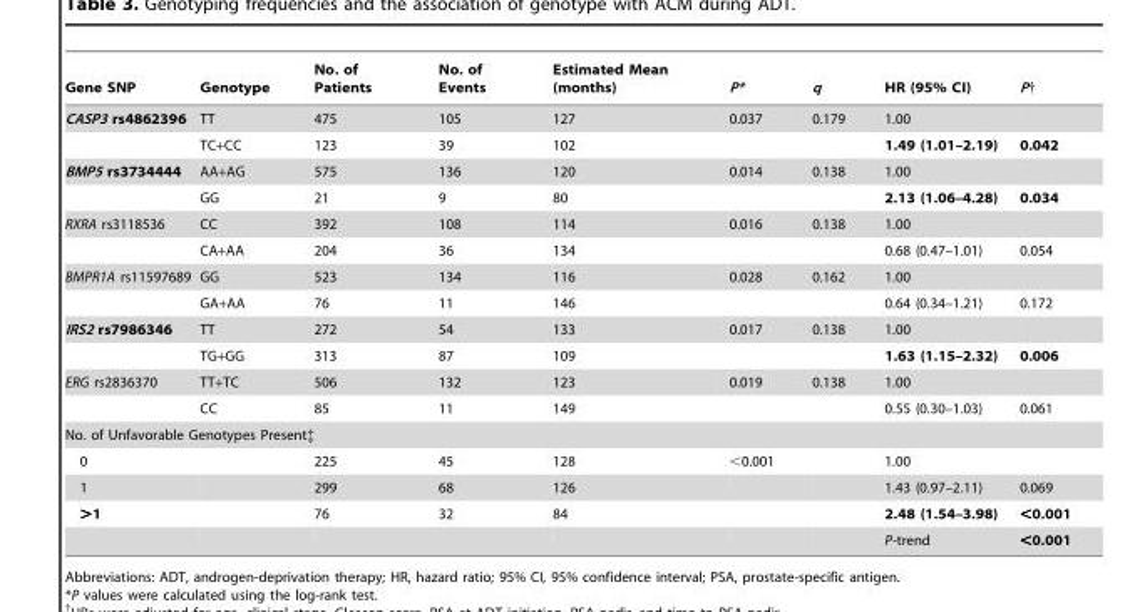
<table><thead><tr><td>Gene SNP</td><td>Genotype</td><td>No. of Patients</td><td>No. of Events</td><td>Estimated Mean (months)</td><td>P*</td><td>q</td><td>HR (95% CI)</td><td>P†</td></tr></thead><tbody><tr><td rowspan="2">CASP3 rs4862396</td><td>TT</td><td>475</td><td>105</td><td>127</td><td>0.037</td><td>0.179</td><td>1.00</td><td></td></tr><tr><td>TC+CC</td><td>123</td><td>39</td><td>102</td><td></td><td></td><td>1.49 (1.01–2.19)</td><td>0.042</td></tr><tr><td rowspan="2">BMP5 rs3734444</td><td>AA+AG</td><td>575</td><td>136</td><td>120</td><td>0.014</td><td>0.138</td><td>1.00</td><td></td></tr><tr><td>GG</td><td>21</td><td>9</td><td>80</td><td></td><td></td><td>2.13 (1.06–4.28)</td><td>0.034</td></tr><tr><td rowspan="2">RXRA rs3118536</td><td>CC</td><td>392</td><td>108</td><td>114</td><td>0.016</td><td>0.138</td><td>1.00</td><td></td></tr><tr><td>CA+AA</td><td>204</td><td>36</td><td>134</td><td></td><td></td><td>0.68 (0.47–1.01)</td><td>0.054</td></tr><tr><td rowspan="2">BMPR1A rs11597689</td><td>GG</td><td>523</td><td>134</td><td>116</td><td>0.028</td><td>0.162</td><td>1.00</td><td></td></tr><tr><td>GA+AA</td><td>76</td><td>11</td><td>146</td><td></td><td></td><td>0.64 (0.34–1.21)</td><td>0.172</td></tr><tr><td rowspan="2">IRS2 rs7986346</td><td>TT</td><td>272</td><td>54</td><td>133</td><td>0.017</td><td>0.138</td><td>1.00</td><td></td></tr><tr><td>TG+GG</td><td>313</td><td>87</td><td>109</td><td></td><td></td><td>1.63 (1.15–2.32)</td><td>0.006</td></tr><tr><td rowspan="2">ERG rs2836370</td><td>TT+TC</td><td>506</td><td>132</td><td>123</td><td>0.019</td><td>0.138</td><td>1.00</td><td></td></tr><tr><td>CC</td><td>85</td><td>11</td><td>149</td><td></td><td></td><td>0.55 (0.30–1.03)</td><td>0.061</td></tr><tr><td colspan="9">No. of Unfavorable Genotypes Present‡</td></tr><tr><td>0</td><td></td><td>225</td><td>45</td><td>128</td><td>&lt;0.001</td><td></td><td>1.00</td><td></td></tr><tr><td>1</td><td></td><td>299</td><td>68</td><td>126</td><td></td><td></td><td>1.43 (0.97–2.11)</td><td>0.069</td></tr><tr><td rowspan="2">&gt;1</td><td></td><td>76</td><td>32</td><td>84</td><td></td><td></td><td>2.48 (1.54–3.98)</td><td>&lt;0.001</td></tr><tr><td></td><td></td><td></td><td></td><td></td><td></td><td>P-trend</td><td>&lt;0.001</td></tr></tbody></table>